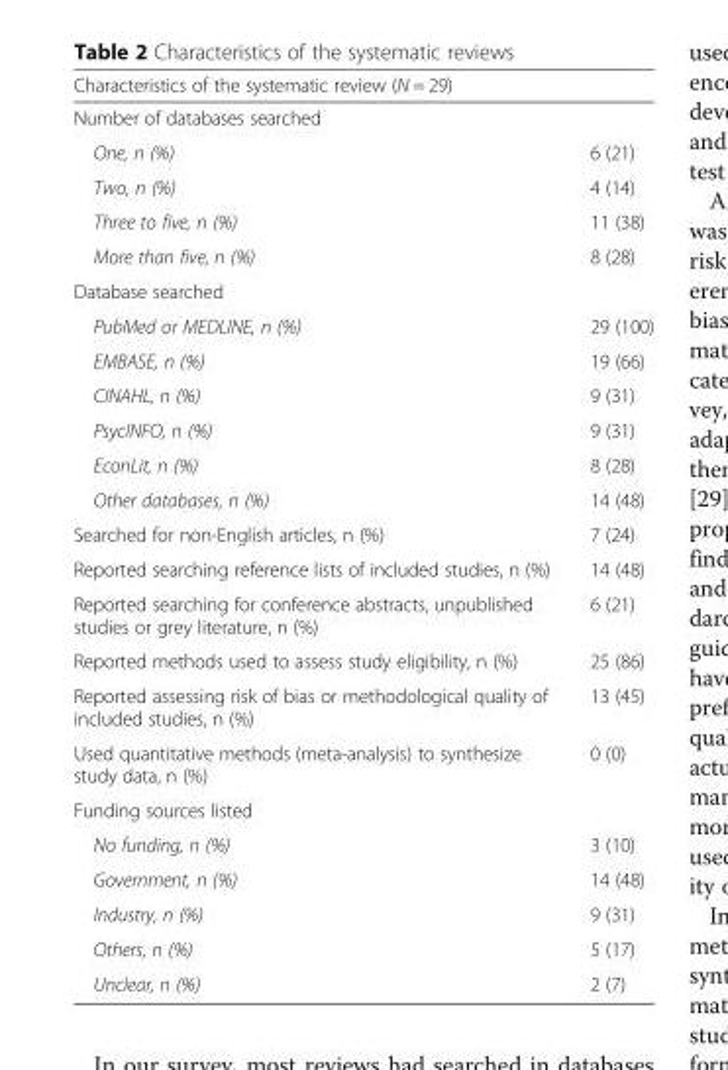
<table><thead><tr><td rowspan="2" colspan="2">Characteristics of the systematic review (N = 29) Number of databases searched</td></tr><tr></tr><tr><td>One, n (%)</td><td>6 (21)</td></tr></thead><tbody><tr><td>Two, n (%)</td><td>4 (14)</td></tr><tr><td>Three to five, n (%)</td><td>11 (38)</td></tr><tr><td>More than five, n (%)</td><td>8 (28)</td></tr><tr><td colspan="2">Database searched</td></tr><tr><td>PubMed or MEDLINE, n (%)</td><td>29 (100)</td></tr><tr><td>EMBASE, n (%)</td><td>19 (66)</td></tr><tr><td>CINAHL, n (%)</td><td>9 (31)</td></tr><tr><td>PsycINFO, n (%)</td><td>9 (31)</td></tr><tr><td>EconLit, n (%)</td><td>8 (28)</td></tr><tr><td>Other databases, n (%)</td><td>14 (48)</td></tr><tr><td>Searched for non-English articles, n (%)</td><td>7 (24)</td></tr><tr><td>Reported searching reference lists of included studies, n (%)</td><td>14 (48)</td></tr><tr><td>Reported searching for conference abstracts, unpublished studies or grey literature, n (%)</td><td>6 (21)</td></tr><tr><td>Reported methods used to assess study eligibility, n (%)</td><td>25 (86)</td></tr><tr><td>Reported assessing risk of bias or methodological quality of included studies, n (%)</td><td>13 (45)</td></tr><tr><td>Used quantitative methods (meta-analysis) to synthesize study data, n (%)</td><td>0 (0)</td></tr><tr><td colspan="2">Funding sources listed</td></tr><tr><td>No funding, n (%)</td><td>3 (10)</td></tr><tr><td>Government, n (%)</td><td>14 (48)</td></tr><tr><td>Industry, n (%)</td><td>9 (31)</td></tr><tr><td>Others, n (%)</td><td>5 (17)</td></tr><tr><td>Unclear, n (%)</td><td>2 (7)</td></tr></tbody></table>